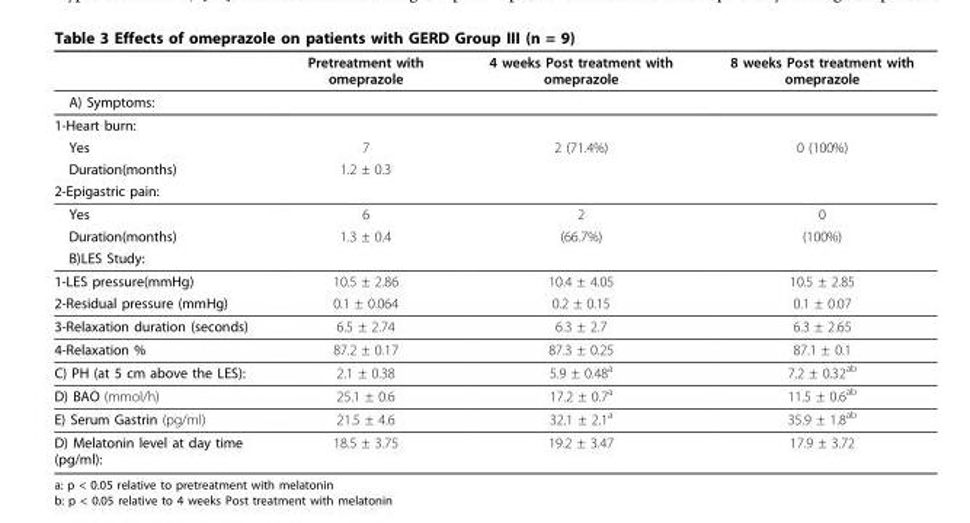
<table><thead><tr><td></td><td>Pretreatment with omeprazole</td><td>4 weeks Post treatment with omeprazole</td><td>8 weeks Post treatment with omeprazole</td></tr></thead><tbody><tr><td colspan="4">A) Symptoms:</td></tr><tr><td colspan="4">1-Heart burn:</td></tr><tr><td>Yes</td><td>7</td><td>2 (71.4%)</td><td>0 (100%)</td></tr><tr><td>Duration(months)</td><td>1.2 ± 0.3</td><td></td><td></td></tr><tr><td colspan="4">2-Epigastric pain:</td></tr><tr><td>Yes</td><td>6</td><td>2</td><td>0</td></tr><tr><td>Duration(months)</td><td>1.3 ± 0.4</td><td>(66.7%)</td><td>(100%)</td></tr><tr><td colspan="4">B)LES Study:</td></tr><tr><td>1-LES pressure(mmHg)</td><td>10.5 ± 2.86</td><td>10.4 ± 4.05</td><td>10.5 ± 2.85</td></tr><tr><td>2-Residual pressure (mmHg)</td><td>0.1 ± 0.064</td><td>0.2 ± 0.15</td><td>0.1 ± 0.07</td></tr><tr><td>3-Relaxation duration (seconds)</td><td>6.5 ± 2.74</td><td>6.3 ± 2.7</td><td>6.3 ± 2.65</td></tr><tr><td>4-Relaxation %</td><td>87.2 ± 0.17</td><td>87.3 ± 0.25</td><td>87.1 ± 0.1</td></tr><tr><td>C) PH (at 5 cm above the LES):</td><td>2.1 ± 0.38</td><td>5.9 ± 0.48<sup>a</sup></td><td>7.2 ± 0.32<sup>ab</sup></td></tr><tr><td>D) BAO (mmol/h)</td><td>25.1 ± 0.6</td><td>17.2 ± 0.7<sup>a</sup></td><td>11.5 ± 0.6<sup>ab</sup></td></tr><tr><td>E) Serum Gastrin (pg/ml)</td><td>21.5 ± 4.6</td><td>32.1 ± 2.1<sup>a</sup></td><td>35.9 ± 1.8<sup>ab</sup></td></tr><tr><td>D) Melatonin level at day time (pg/ml):</td><td>18.5 ± 3.75</td><td>19.2 ± 3.47</td><td>17.9 ± 3.72</td></tr></tbody></table>